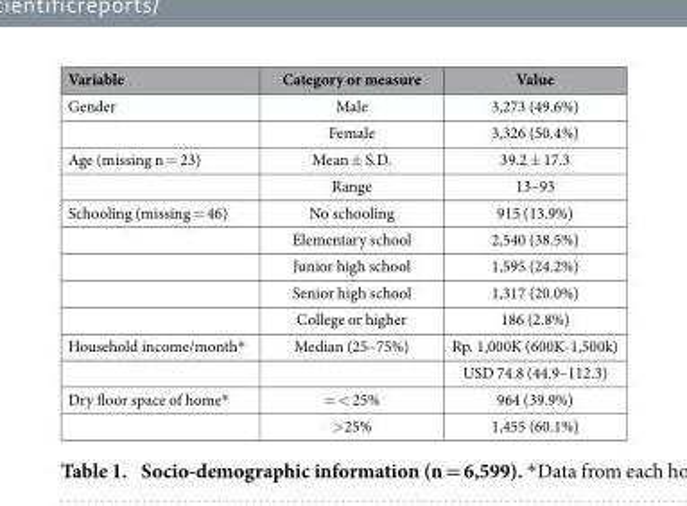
<table><thead><tr><td>Variable</td><td>Category or measure</td><td>Value</td></tr></thead><tbody><tr><td rowspan="2">Gender</td><td>Male</td><td>3,273 (49.6%)</td></tr><tr><td>Female</td><td>3,326 (50.4%)</td></tr><tr><td rowspan="2">Age (missing n = 23)</td><td>Mean ± S.D.</td><td>39.2 ± 17.3</td></tr><tr><td>Range</td><td>13–93</td></tr><tr><td rowspan="5">Schooling (missing = 46)</td><td>No schooling</td><td>915 (13.9%)</td></tr><tr><td>Elementary school</td><td>2,540 (38.5%)</td></tr><tr><td>Junior high school</td><td>1,595 (24.2%)</td></tr><tr><td>Senior high school</td><td>1,317 (20.0%)</td></tr><tr><td>College or higher</td><td>186 (2.8%)</td></tr><tr><td rowspan="2">Household income/month*</td><td>Median (25–75%)</td><td>Rp. 1,000K (600K-1,500k)</td></tr><tr><td></td><td>USD 74.8 (44.9–112.3)</td></tr><tr><td rowspan="2">Dry floor space of home*</td><td>= &lt; 25%</td><td>964 (39.9%)</td></tr><tr><td>&gt; 25%</td><td>1,455 (60.1%)</td></tr></tbody></table>